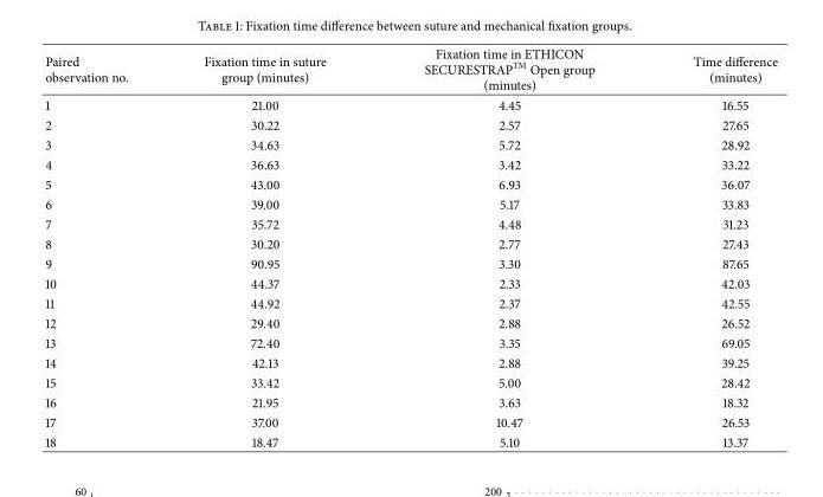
<table><thead><tr><td>Paired observation no.</td><td>Fixation time in suture group (minutes)</td><td>Fixation time in ETHICON SECURESTRAP<sup>TM</sup> Open group (minutes)</td><td>Time difference (minutes)</td></tr></thead><tbody><tr><td>1</td><td>21.00</td><td>4.45</td><td>16.55</td></tr><tr><td>2</td><td>30.22</td><td>2.57</td><td>27.65</td></tr><tr><td>3</td><td>34.63</td><td>5.72</td><td>28.92</td></tr><tr><td>4</td><td>36.63</td><td>3.42</td><td>33.22</td></tr><tr><td>5</td><td>43.00</td><td>6.93</td><td>36.07</td></tr><tr><td>6</td><td>39.00</td><td>5.17</td><td>33.83</td></tr><tr><td>7</td><td>35.72</td><td>4.48</td><td>31.23</td></tr><tr><td>8</td><td>30.20</td><td>2.77</td><td>27.43</td></tr><tr><td>9</td><td>90.95</td><td>3.30</td><td>87.65</td></tr><tr><td>10</td><td>44.37</td><td>2.33</td><td>42.03</td></tr><tr><td>11</td><td>44.92</td><td>2.37</td><td>42.55</td></tr><tr><td>12</td><td>29.40</td><td>2.88</td><td>26.52</td></tr><tr><td>13</td><td>72.40</td><td>3.35</td><td>69.05</td></tr><tr><td>14</td><td>42.13</td><td>2.88</td><td>39.25</td></tr><tr><td>15</td><td>33.42</td><td>5.00</td><td>28.42</td></tr><tr><td>16</td><td>21.95</td><td>3.63</td><td>18.32</td></tr><tr><td>17</td><td>37.00</td><td>10.47</td><td>26.53</td></tr><tr><td>18</td><td>18.47</td><td>5.10</td><td>13.37</td></tr></tbody></table>